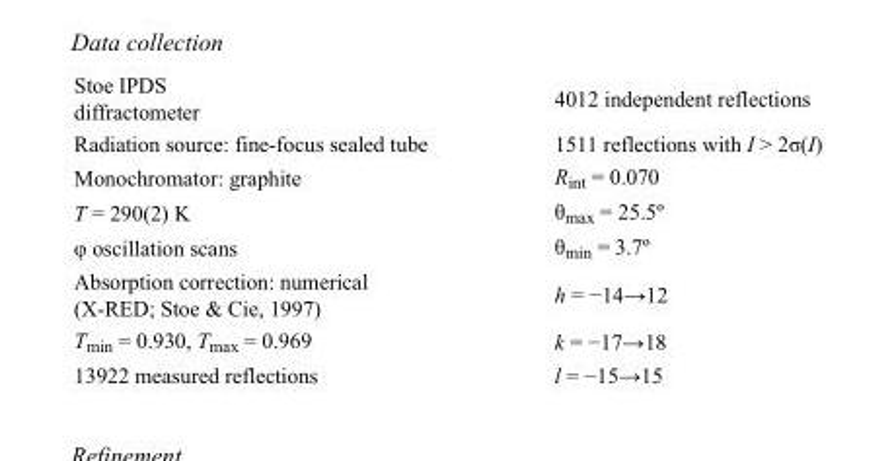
<table><tbody><tr><td>Stoe IPDS diffractometer</td><td>4012 independent reflections</td></tr><tr><td>Radiation source: fine-focus sealed tube</td><td>1511 reflections with I &gt; 2σ(I)</td></tr><tr><td>Monochromator: graphite</td><td>R<sub>int</sub> = 0.070</td></tr><tr><td>T = 290(2) K</td><td>θ<sub>max</sub> = 25.5º</td></tr><tr><td>φ oscillation scans</td><td>θ<sub>min</sub> = 3.7º</td></tr><tr><td>Absorption correction: numerical (X-RED; Stoe &amp; Cie, 1997)</td><td>h = −14→12</td></tr><tr><td>T<sub>min</sub> = 0.930, T<sub>max</sub> = 0.969</td><td>k = −17→18</td></tr><tr><td>13922 measured reflections</td><td>l = −15→15</td></tr></tbody></table>